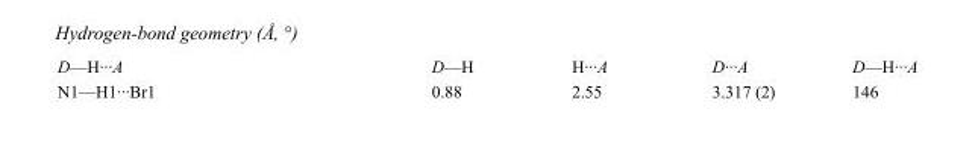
<table><tbody><tr><td>D—H···A</td><td>D—H</td><td>H···A</td><td>D···A</td><td>D—H···A</td></tr><tr><td>N1—H1···Br1</td><td>0.88</td><td>2.55</td><td>3.317 (2)</td><td>146</td></tr></tbody></table>